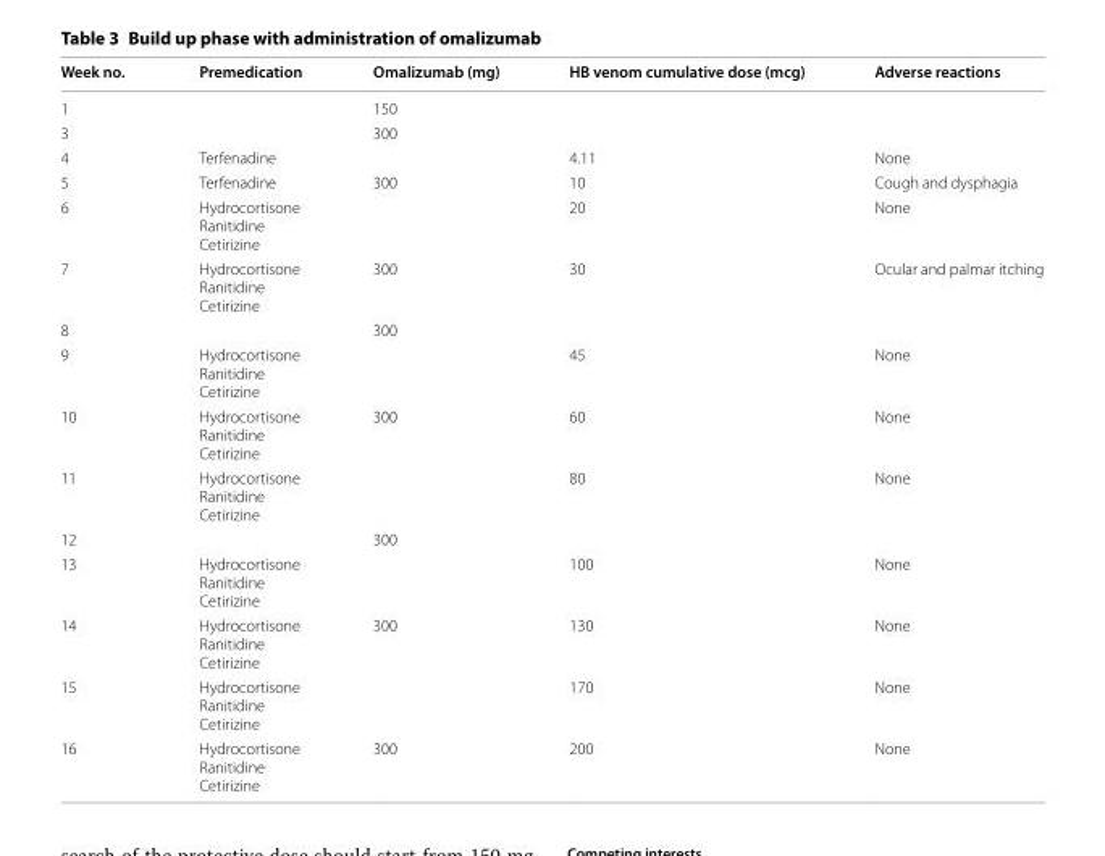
<table><thead><tr><td>Week no.</td><td>Premedication</td><td>Omalizumab (mg)</td><td>HB venom cumulative dose (mcg)</td><td>Adverse reactions</td></tr></thead><tbody><tr><td>1</td><td></td><td>150</td><td></td><td></td></tr><tr><td>3</td><td></td><td>300</td><td></td><td></td></tr><tr><td>4</td><td>Terfenadine</td><td></td><td>4.11</td><td>None</td></tr><tr><td>5</td><td>Terfenadine</td><td>300</td><td>10</td><td>Cough and dysphagia</td></tr><tr><td>6</td><td>Hydrocortisone Ranitidine Cetirizine</td><td></td><td>20</td><td>None</td></tr><tr><td>7</td><td>Hydrocortisone Ranitidine Cetirizine</td><td>300</td><td>30</td><td>Ocular and palmar itching</td></tr><tr><td>8</td><td></td><td>300</td><td></td><td></td></tr><tr><td>9</td><td>Hydrocortisone Ranitidine Cetirizine</td><td></td><td>45</td><td>None</td></tr><tr><td>10</td><td>Hydrocortisone Ranitidine Cetirizine</td><td>300</td><td>60</td><td>None</td></tr><tr><td>11</td><td>Hydrocortisone Ranitidine Cetirizine</td><td></td><td>80</td><td>None</td></tr><tr><td>12</td><td></td><td>300</td><td></td><td></td></tr><tr><td>13</td><td>Hydrocortisone Ranitidine Cetirizine</td><td></td><td>100</td><td>None</td></tr><tr><td>14</td><td>Hydrocortisone Ranitidine Cetirizine</td><td>300</td><td>130</td><td>None</td></tr><tr><td>15</td><td>Hydrocortisone Ranitidine Cetirizine</td><td></td><td>170</td><td>None</td></tr><tr><td>16</td><td>Hydrocortisone Ranitidine Cetirizine</td><td>300</td><td>200</td><td>None</td></tr></tbody></table>